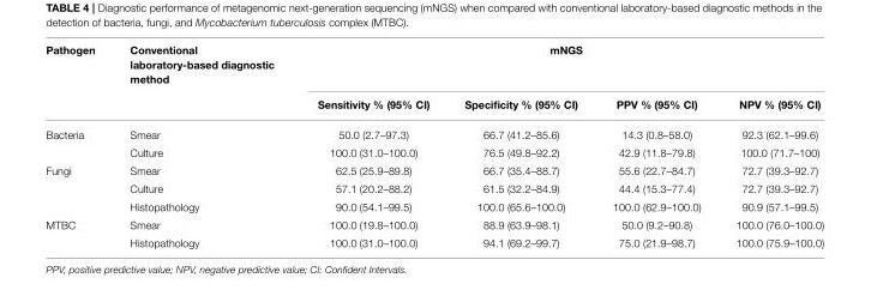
<table><thead><tr><td rowspan="2">Pathogen</td><td rowspan="2">Conventional laboratory-based diagnostic method</td><td colspan="4">mNGS</td></tr><tr><td>Sensitivity % (95% CI)</td><td>Specificity % (95% CI)</td><td>PPV % (95% CI)</td><td>NPV % (95% CI)</td></tr></thead><tbody><tr><td rowspan="2">Bacteria</td><td>Smear</td><td>50.0 (2.7–97.3)</td><td>66.7 (41.2–85.6)</td><td>14.3 (0.8–58.0)</td><td>92.3 (62.1–99.6)</td></tr><tr><td>Culture</td><td>100.0 (31.0–100.0)</td><td>76.5 (49.8–92.2)</td><td>42.9 (11.8–79.8)</td><td>100.0 (71.7–100)</td></tr><tr><td rowspan="3">Fungi</td><td>Smear</td><td>62.5 (25.9–89.8)</td><td>66.7 (35.4–88.7)</td><td>55.6 (22.7–84.7)</td><td>72.7 (39.3–92.7)</td></tr><tr><td>Culture</td><td>57.1 (20.2–88.2)</td><td>61.5 (32.2–84.9)</td><td>44.4 (15.3–77.4)</td><td>72.7 (39.3–92.7)</td></tr><tr><td>Histopathology</td><td>90.0 (54.1–99.5)</td><td>100.0 (65.6–100.0)</td><td>100.0 (62.9–100.0)</td><td>90.9 (57.1–99.5)</td></tr><tr><td rowspan="2">MTBC</td><td>Smear</td><td>100.0 (19.8–100.0)</td><td>88.9 (63.9–98.1)</td><td>50.0 (9.2–90.8)</td><td>100.0 (76.0–100.0)</td></tr><tr><td>Histopathology</td><td>100.0 (31.0–100.0)</td><td>94.1 (69.2–99.7)</td><td>75.0 (21.9–98.7)</td><td>100.0 (75.9–100.0)</td></tr></tbody></table>